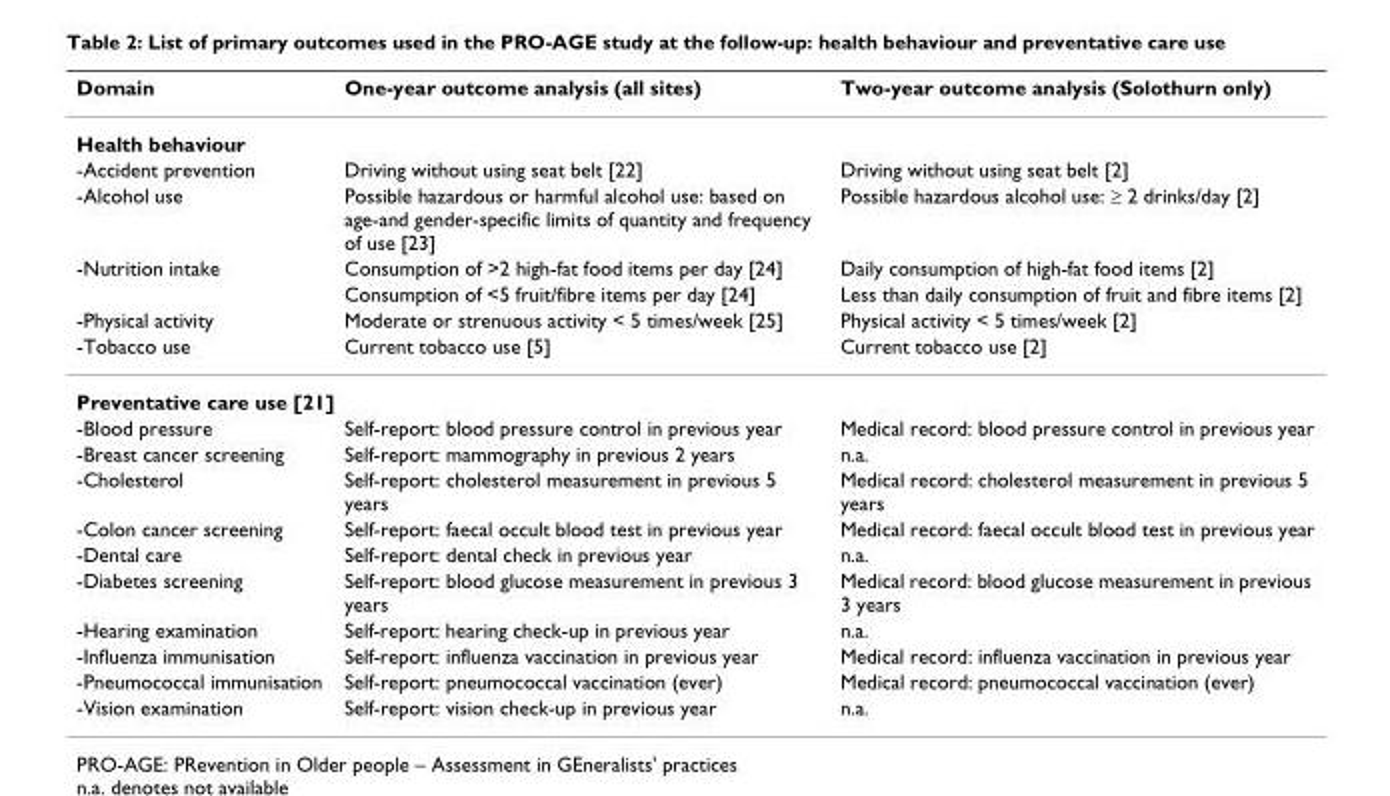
<table><thead><tr><td>Domain</td><td>One-year outcome analysis (all sites)</td><td>Two-year outcome analysis (Solothurn only)</td></tr></thead><tbody><tr><td colspan="3">Health behaviour</td></tr><tr><td>-Accident prevention</td><td>Driving without using seat belt [22]</td><td>Driving without using seat belt [2]</td></tr><tr><td>-Alcohol use</td><td>Possible hazardous or harmful alcohol use: based on age-and gender-specific limits of quantity and frequency of use [23]</td><td>Possible hazardous alcohol use: ≥ 2 drinks/day [2]</td></tr><tr><td rowspan="2">-Nutrition intake</td><td>Consumption of &gt;2 high-fat food items per day [24]</td><td>Daily consumption of high-fat food items [2]</td></tr><tr><td>Consumption of &lt;5 fruit/fibre items per day [24]</td><td>Less than daily consumption of fruit and fibre items [2]</td></tr><tr><td>-Physical activity</td><td>Moderate or strenuous activity &lt; 5 times/week [25]</td><td>Physical activity &lt; 5 times/week [2]</td></tr><tr><td>-Tobacco use</td><td>Current tobacco use [5]</td><td>Current tobacco use [2]</td></tr><tr><td colspan="3">Preventative care use [21]</td></tr><tr><td>-Blood pressure</td><td>Self-report: blood pressure control in previous year</td><td>Medical record: blood pressure control in previous year</td></tr><tr><td>-Breast cancer screening</td><td>Self-report: mammography in previous 2 years</td><td>n.a.</td></tr><tr><td>-Cholesterol</td><td>Self-report: cholesterol measurement in previous 5 years</td><td>Medical record: cholesterol measurement in previous 5 years</td></tr><tr><td>-Colon cancer screening</td><td>Self-report: faecal occult blood test in previous year</td><td>Medical record: faecal occult blood test in previous year</td></tr><tr><td>-Dental care</td><td>Self-report: dental check in previous year</td><td>n.a.</td></tr><tr><td>-Diabetes screening</td><td>Self-report: blood glucose measurement in previous 3 years</td><td>Medical record: blood glucose measurement in previous 3 years</td></tr><tr><td>-Hearing examination</td><td>Self-report: hearing check-up in previous year</td><td>n.a.</td></tr><tr><td>-Influenza immunisation</td><td>Self-report: influenza vaccination in previous year</td><td>Medical record: influenza vaccination in previous year</td></tr><tr><td>-Pneumococcal immunisation</td><td>Self-report: pneumococcal vaccination (ever)</td><td>Medical record: pneumococcal vaccination (ever)</td></tr><tr><td>-Vision examination</td><td>Self-report: vision check-up in previous year</td><td>n.a.</td></tr></tbody></table>